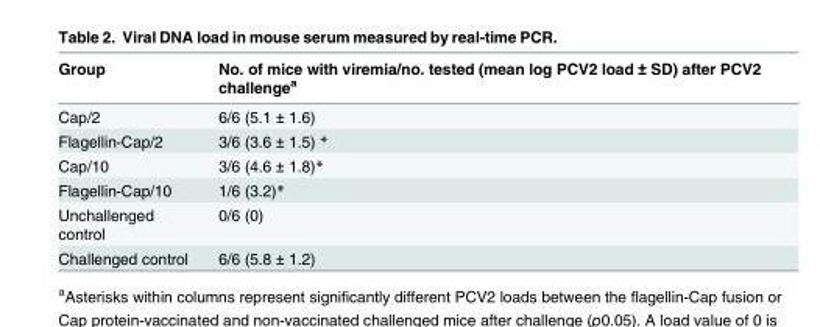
<table><thead><tr><td>Group</td><td>No. of mice with viremia/no. tested (mean log PCV2 load ± SD) after PCV2 challenge<sup>a</sup></td></tr></thead><tbody><tr><td>Cap/2</td><td>6/6 (5.1 ± 1.6)</td></tr><tr><td>Flagellin-Cap/2</td><td>3/6 (3.6 ± 1.5) *</td></tr><tr><td>Cap/10</td><td>3/6 (4.6 ± 1.8)*</td></tr><tr><td>Flagellin-Cap/10</td><td>1/6 (3.2)*</td></tr><tr><td>Unchallenged control</td><td>0/6 (0)</td></tr><tr><td>Challenged control</td><td>6/6 (5.8 ± 1.2)</td></tr></tbody></table>